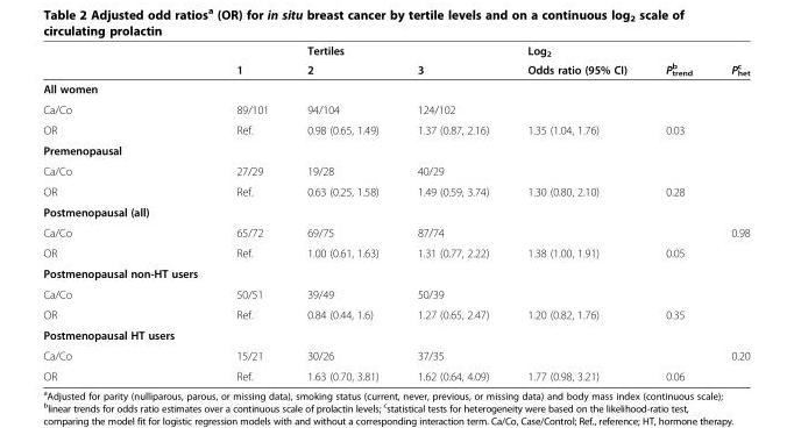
<table><thead><tr><td rowspan="2"></td><td rowspan="2">1</td><td rowspan="2">Tertiles 2</td><td rowspan="2">3</td><td rowspan="2">Log<sub>2</sub> Odds ratio (95% CI)</td><td rowspan="2">P<sub>trend</sub> <sup>b</sup></td><td rowspan="2">P<sub>het</sub> <sup>c</sup></td></tr><tr></tr></thead><tbody><tr><td colspan="7">All women</td></tr><tr><td>Ca/Co</td><td>89/101</td><td>94/104</td><td>124/102</td><td></td><td></td><td></td></tr><tr><td>OR</td><td>Ref.</td><td>0.98 (0.65, 1.49)</td><td>1.37 (0.87, 2.16)</td><td>1.35 (1.04, 1.76)</td><td>0.03</td><td></td></tr><tr><td colspan="7">Premenopausal</td></tr><tr><td>Ca/Co</td><td>27/29</td><td>19/28</td><td>40/29</td><td></td><td></td><td></td></tr><tr><td>OR</td><td>Ref.</td><td>0.63 (0.25, 1.58)</td><td>1.49 (0.59, 3.74)</td><td>1.30 (0.80, 2.10)</td><td>0.28</td><td></td></tr><tr><td colspan="7">Postmenopausal (all)</td></tr><tr><td>Ca/Co</td><td>65/72</td><td>69/75</td><td>87/74</td><td></td><td></td><td>0.98</td></tr><tr><td>OR</td><td>Ref.</td><td>1.00 (0.61, 1.63)</td><td>1.31 (0.77, 2.22)</td><td>1.38 (1.00, 1.91)</td><td>0.05</td><td></td></tr><tr><td colspan="7">Postmenopausal non-HT users</td></tr><tr><td>Ca/Co</td><td>50/51</td><td>39/49</td><td>50/39</td><td></td><td></td><td></td></tr><tr><td>OR</td><td>Ref.</td><td>0.84 (0.44, 1.6)</td><td>1.27 (0.65, 2.47)</td><td>1.20 (0.82, 1.76)</td><td>0.35</td><td></td></tr><tr><td colspan="7">Postmenopausal HT users</td></tr><tr><td>Ca/Co</td><td>15/21</td><td>30/26</td><td>37/35</td><td></td><td></td><td>0.20</td></tr><tr><td>OR</td><td>Ref.</td><td>1.63 (0.70, 3.81)</td><td>1.62 (0.64, 4.09)</td><td>1.77 (0.98, 3.21)</td><td>0.06</td><td></td></tr></tbody></table>